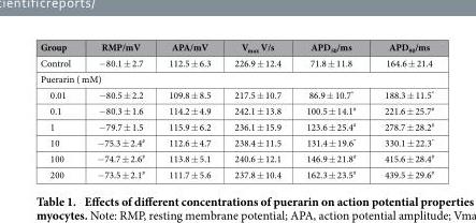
<table><thead><tr><td>Group</td><td>RMP/mV</td><td>APA/mV</td><td>V<sub>max</sub> V/s</td><td>APD<sub>50</sub>/ms</td><td>APD<sub>90</sub>/ms</td></tr></thead><tbody><tr><td>Control</td><td>−80.1 ± 2.7</td><td>112.5 ± 6.3</td><td>226.9 ± 12.4</td><td>71.8 ± 11.8</td><td>164.6 ± 21.4</td></tr><tr><td colspan="6">Puerarin ( mM)</td></tr><tr><td>0.01</td><td>−80.5 ± 2.2</td><td>109.8 ± 8.5</td><td>217.5 ± 10.7</td><td>86.9 ± 10.7*</td><td>188.3 ± 11.5*</td></tr><tr><td>0.1</td><td>−80.3 ± 1.6</td><td>114.2 ± 4.9</td><td>242.1 ± 13.8</td><td>100.5 ± 14.1<sup>#</sup></td><td>221.6 ± 25.7<sup>#</sup></td></tr><tr><td>1</td><td>−79.7 ± 1.5</td><td>115.9 ± 6.2</td><td>236.1 ± 15.9</td><td>123.6 ± 25.4<sup>#</sup></td><td>278.7 ± 28.2<sup>#</sup></td></tr><tr><td>10</td><td>−75.3 ± 2.4<sup>#</sup></td><td>112.6 ± 4.7</td><td>238.4 ± 11.5</td><td>131.4 ± 19.6*</td><td>330.1 ± 22.3*</td></tr><tr><td>100</td><td>−74.7 ± 2.6<sup>#</sup></td><td>113.8 ± 5.1</td><td>240.6 ± 12.1</td><td>146.9 ± 21.8<sup>#</sup></td><td>415.6 ± 28.4<sup>#</sup></td></tr><tr><td>200</td><td>−73.5 ± 2.1<sup>#</sup></td><td>111.7 ± 5.6</td><td>237.8 ± 10.4</td><td>162.3 ± 23.5<sup>#</sup></td><td>439.5 ± 29.6<sup>#</sup></td></tr></tbody></table>